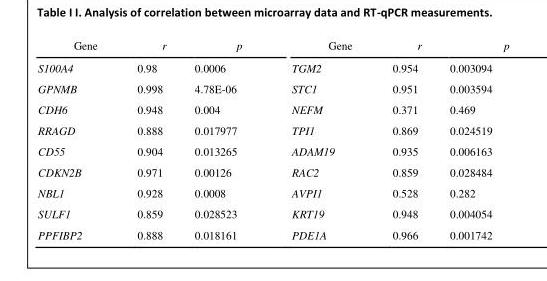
<table><thead><tr><td rowspan="10">Gene S100A4 GPNMB CDH6 RRAGD CD55 CDKN2B NBL1 SULF1 PPFIBP2</td><td rowspan="10">r 0.98 0.998 0.948 0.888 0.904 0.971 0.928 0.859 0.888</td><td rowspan="10">p 0.0006 4.78E-06 0.004 0.017977 0.013265 0.00126 0.0008 0.028523 0.018161</td><td rowspan="10">Gene TGM2 STC1 NEFM TPI1 ADAM19 RAC2 AVPI1 KRT19 PDE1A</td><td rowspan="10">r 0.954 0.951 0.371 0.869 0.935 0.859 0.528 0.948 0.966</td><td rowspan="10">p 0.003094 0.003594 0.469 0.024519 0.006163 0.028484 0.282 0.004054 0.001742</td></tr><tr></tr><tr></tr><tr></tr><tr></tr><tr></tr><tr></tr><tr></tr><tr></tr><tr></tr></thead><tbody></tbody></table>